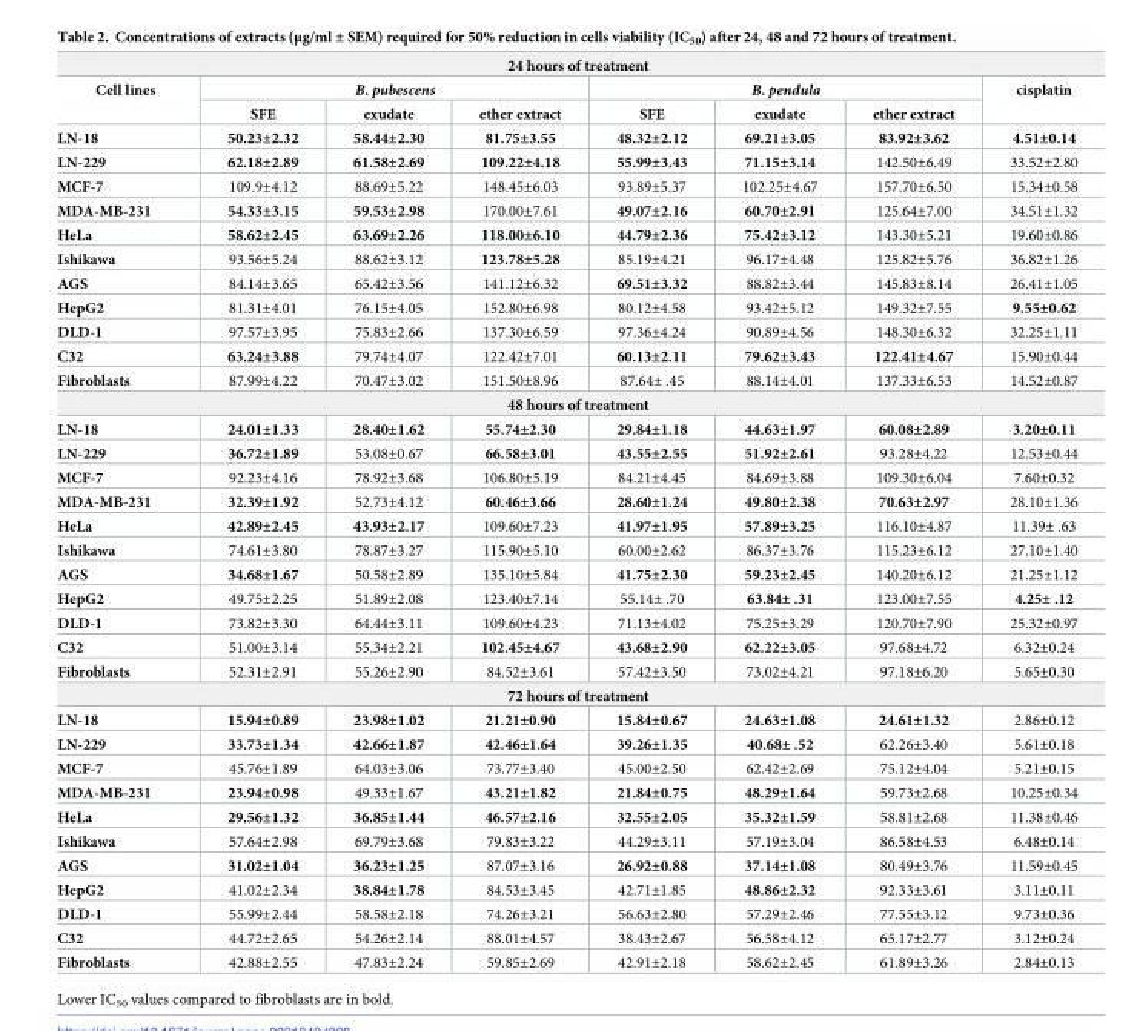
<table><tbody><tr><td colspan="8">24 hours of treatment</td></tr><tr><td rowspan="2">Cell lines</td><td colspan="3">B. pubescens</td><td colspan="3">B. pendula</td><td rowspan="2">cisplatin</td></tr><tr><td>SFE</td><td>exudate</td><td>ether extract</td><td>SFE</td><td>exudate</td><td>ether extract</td></tr><tr><td>LN-18</td><td>50.23±2.32</td><td>58.44±2.30</td><td>81.75±3.55</td><td>48.32±2.12</td><td>69.21±3.05</td><td>83.92±3.62</td><td>4.51±0.14</td></tr><tr><td>LN-229</td><td>62.18±2.89</td><td>61.58±2.69</td><td>109.22±4.18</td><td>55.99±3.43</td><td>71.15±3.14</td><td>142.50±6.49</td><td>33.52±2.80</td></tr><tr><td>MCF-7</td><td>109.9±4.12</td><td>88.69±5.22</td><td>148.45±6.03</td><td>93.89±5.37</td><td>102.25±4.67</td><td>157.70±6.50</td><td>15.34±0.58</td></tr><tr><td>MDA-MB-231</td><td>54.33±3.15</td><td>59.53±2.98</td><td>170.00±7.61</td><td>49.07±2.16</td><td>60.70±2.91</td><td>125.64±7.00</td><td>34.51±1.32</td></tr><tr><td>HeLa</td><td>58.62±2.45</td><td>63.69±2.26</td><td>118.00±6.10</td><td>44.79±2.36</td><td>75.42±3.12</td><td>143.30±5.21</td><td>19.60±0.86</td></tr><tr><td>Ishikawa</td><td>93.56±5.24</td><td>88.62±3.12</td><td>123.78±5.28</td><td>85.19±4.21</td><td>96.17±4.48</td><td>125.82±5.76</td><td>36.82±1.26</td></tr><tr><td>AGS</td><td>84.14±3.65</td><td>65.42±3.56</td><td>141.12±6.32</td><td>69.51±3.32</td><td>88.82±3.44</td><td>145.83±8.14</td><td>26.41±1.05</td></tr><tr><td>HepG2</td><td>81.31±4.01</td><td>76.15±4.05</td><td>152.80±6.98</td><td>80.12±4.58</td><td>93.42±5.12</td><td>149.32±7.55</td><td>9.55±0.62</td></tr><tr><td>DLD-1</td><td>97.57±3.95</td><td>75.83±2.66</td><td>137.30±6.59</td><td>97.36±4.24</td><td>90.89±4.56</td><td>148.30±6.32</td><td>32.25±1.11</td></tr><tr><td>C32</td><td>63.24±3.88</td><td>79.74±4.07</td><td>122.42±7.01</td><td>60.13±2.11</td><td>79.62±3.43</td><td>122.41±4.67</td><td>15.90±0.44</td></tr><tr><td>Fibroblasts</td><td>87.99±4.22</td><td>70.47±3.02</td><td>151.50±8.96</td><td>87.64± .45</td><td>88.14±4.01</td><td>137.33±6.53</td><td>14.52±0.87</td></tr><tr><td colspan="8">48 hours of treatment</td></tr><tr><td>LN-18</td><td>24.01±1.33</td><td>28.40±1.62</td><td>55.74±2.30</td><td>29.84±1.18</td><td>44.63±1.97</td><td>60.08±2.89</td><td>3.20±0.11</td></tr><tr><td>LN-229</td><td>36.72±1.89</td><td>53.08±0.67</td><td>66.58±3.01</td><td>43.55±2.55</td><td>51.92±2.61</td><td>93.28±4.22</td><td>12.53±0.44</td></tr><tr><td>MCF-7</td><td>92.23±4.16</td><td>78.92±3.68</td><td>106.80±5.19</td><td>84.21±4.45</td><td>84.69±3.88</td><td>109.30±6.04</td><td>7.60±0.32</td></tr><tr><td>MDA-MB-231</td><td>32.39±1.92</td><td>52.73±4.12</td><td>60.46±3.66</td><td>28.60±1.24</td><td>49.80±2.38</td><td>70.63±2.97</td><td>28.10±1.36</td></tr><tr><td>HeLa</td><td>42.89±2.45</td><td>43.93±2.17</td><td>109.60±7.23</td><td>41.97±1.95</td><td>57.89±3.25</td><td>116.10±4.87</td><td>11.39± .63</td></tr><tr><td>Ishikawa</td><td>74.61±3.80</td><td>78.87±3.27</td><td>115.90±5.10</td><td>60.00±2.62</td><td>86.37±3.76</td><td>115.23±6.12</td><td>27.10±1.40</td></tr><tr><td>AGS</td><td>34.68±1.67</td><td>50.58±2.89</td><td>135.10±5.84</td><td>41.75±2.30</td><td>59.23±2.45</td><td>140.20±6.12</td><td>21.25±1.12</td></tr><tr><td>HepG2</td><td>49.75±2.25</td><td>51.89±2.08</td><td>123.40±7.14</td><td>55.14± .70</td><td>63.84± .31</td><td>123.00±7.55</td><td>4.25± .12</td></tr><tr><td>DLD-1</td><td>73.82±3.30</td><td>64.44±3.11</td><td>109.60±4.23</td><td>71.13±4.02</td><td>75.25±3.29</td><td>120.70±7.90</td><td>25.32±0.97</td></tr><tr><td>C32</td><td>51.00±3.14</td><td>55.34±2.21</td><td>102.45±4.67</td><td>43.68±2.90</td><td>62.22±3.05</td><td>97.68±4.72</td><td>6.32±0.24</td></tr><tr><td>Fibroblasts</td><td>52.31±2.91</td><td>55.26±2.90</td><td>84.52±3.61</td><td>57.42±3.50</td><td>73.02±4.21</td><td>97.18±6.20</td><td>5.65±0.30</td></tr><tr><td colspan="8">72 hours of treatment</td></tr><tr><td>LN-18</td><td>15.94±0.89</td><td>23.98±1.02</td><td>21.21±0.90</td><td>15.84±0.67</td><td>24.63±1.08</td><td>24.61±1.32</td><td>2.86±0.12</td></tr><tr><td>LN-229</td><td>33.73±1.34</td><td>42.66±1.87</td><td>42.46±1.64</td><td>39.26±1.35</td><td>40.68± .52</td><td>62.26±3.40</td><td>5.61±0.18</td></tr><tr><td>MCF-7</td><td>45.76±1.89</td><td>64.03±3.06</td><td>73.77±3.40</td><td>45.00±2.50</td><td>62.42±2.69</td><td>75.12±4.04</td><td>5.21±0.15</td></tr><tr><td>MDA-MB-231</td><td>23.94±0.98</td><td>49.33±1.67</td><td>43.21±1.82</td><td>21.84±0.75</td><td>48.29±1.64</td><td>59.73±2.68</td><td>10.25±0.34</td></tr><tr><td>HeLa</td><td>29.56±1.32</td><td>36.85±1.44</td><td>46.57±2.16</td><td>32.55±2.05</td><td>35.32±1.59</td><td>58.81±2.68</td><td>11.38±0.46</td></tr><tr><td>Ishikawa</td><td>57.64±2.98</td><td>69.79±3.68</td><td>79.83±3.22</td><td>44.29±3.11</td><td>57.19±3.04</td><td>86.58±4.53</td><td>6.48±0.14</td></tr><tr><td>AGS</td><td>31.02±1.04</td><td>36.23±1.25</td><td>87.07±3.16</td><td>26.92±0.88</td><td>37.14±1.08</td><td>80.49±3.76</td><td>11.59±0.45</td></tr><tr><td>HepG2</td><td>41.02±2.34</td><td>38.84±1.78</td><td>84.53±3.45</td><td>42.71±1.85</td><td>48.86±2.32</td><td>92.33±3.61</td><td>3.11±0.11</td></tr><tr><td>DLD-1</td><td>55.99±2.44</td><td>58.58±2.18</td><td>74.26±3.21</td><td>56.63±2.80</td><td>57.29±2.46</td><td>77.55±3.12</td><td>9.73±0.36</td></tr><tr><td>C32</td><td>44.72±2.65</td><td>54.26±2.14</td><td>88.01±4.57</td><td>38.43±2.67</td><td>56.58±4.12</td><td>65.17±2.77</td><td>3.12±0.24</td></tr><tr><td>Fibroblasts</td><td>42.88±2.55</td><td>47.83±2.24</td><td>59.85±2.69</td><td>42.91±2.18</td><td>58.62±2.45</td><td>61.89±3.26</td><td>2.84±0.13</td></tr></tbody></table>